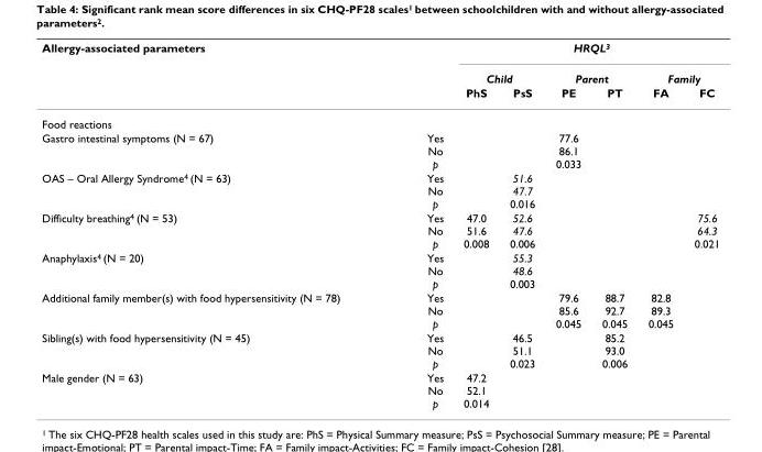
<table><thead><tr><td rowspan="3">Allergy-associated parameters</td><td rowspan="3"></td><td colspan="6">HRQL<sup>3</sup></td></tr><tr><td colspan="2">Child</td><td colspan="2">Parent</td><td colspan="2">Family</td></tr><tr><td>PhS</td><td>PsS</td><td>PE</td><td>PT</td><td>FA</td><td>FC</td></tr></thead><tbody><tr><td colspan="8">Food reactions</td></tr><tr><td>Gastro intestinal symptoms (N = 67)</td><td>Yes No p</td><td></td><td></td><td>77.6 86.1 0.033</td><td></td><td></td><td></td></tr><tr><td>OAS – Oral Allergy Syndrome<sup>4</sup> (N = 63)</td><td>Yes No p</td><td></td><td>51.6 47.7 0.016</td><td></td><td></td><td></td><td></td></tr><tr><td>Difficulty breathing<sup>4</sup> (N = 53)</td><td>Yes No p</td><td>47.0 51.6 0.008</td><td>52.6 47.6 0.006</td><td></td><td></td><td></td><td>75.6 64.3 0.021</td></tr><tr><td>Anaphylaxis<sup>4</sup> (N = 20)</td><td>Yes No p</td><td></td><td>55.3 48.6 0.003</td><td></td><td></td><td></td><td></td></tr><tr><td>Additional family member(s) with food hypersensitivity (N = 78)</td><td>Yes No p</td><td></td><td></td><td>79.6 85.6 0.045</td><td>88.7 92.7 0.045</td><td>82.8 89.3 0.045</td><td></td></tr><tr><td>Sibling(s) with food hypersensitivity (N = 45)</td><td>Yes No p</td><td></td><td>46.5 51.1 0.023</td><td></td><td>85.2 93.0 0.006</td><td></td><td></td></tr><tr><td>Male gender (N = 63)</td><td>Yes No p</td><td>47.2 52.1 0.014</td><td></td><td></td><td></td><td></td><td></td></tr></tbody></table>